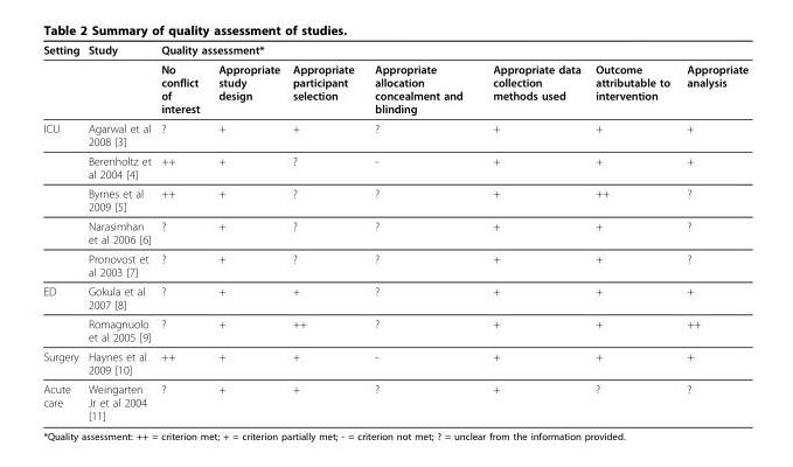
<table><thead><tr><td rowspan="2">Setting</td><td rowspan="2">Study</td><td colspan="7">Quality assessment*</td></tr><tr><td>No conflict of interest</td><td>Appropriate study design</td><td>Appropriate participant selection</td><td>Appropriate allocation concealment and blinding</td><td>Appropriate data collection methods used</td><td>Outcome attributable to intervention</td><td>Appropriate analysis</td></tr></thead><tbody><tr><td rowspan="5">ICU</td><td>Agarwal et al 2008 [3]</td><td>?</td><td>+</td><td>+</td><td>?</td><td>+</td><td>+</td><td>+</td></tr><tr><td>Berenholtz et al 2004 [4]</td><td>++</td><td>+</td><td>?</td><td>-</td><td>+</td><td>+</td><td>+</td></tr><tr><td>Byrnes et al 2009 [5]</td><td>++</td><td>+</td><td>?</td><td>?</td><td>+</td><td>++</td><td>?</td></tr><tr><td>Narasimhan et al 2006 [6]</td><td>?</td><td>+</td><td>?</td><td>?</td><td>+</td><td>+</td><td>?</td></tr><tr><td>Pronovost et al 2003 [7]</td><td>?</td><td>+</td><td>?</td><td>?</td><td>+</td><td>+</td><td>?</td></tr><tr><td rowspan="2">ED</td><td>Gokula et al 2007 [8]</td><td>?</td><td>+</td><td>+</td><td>?</td><td>+</td><td>+</td><td>+</td></tr><tr><td>Romagnuolo et al 2005 [9]</td><td>?</td><td>+</td><td>++</td><td>?</td><td>+</td><td>+</td><td>++</td></tr><tr><td>Surgery</td><td>Haynes et al 2009 [10]</td><td>++</td><td>+</td><td>+</td><td>-</td><td>+</td><td>+</td><td>+</td></tr><tr><td>Acute care</td><td>Weingarten Jr et al 2004 [11]</td><td>?</td><td>+</td><td>+</td><td>?</td><td>+</td><td>?</td><td>?</td></tr></tbody></table>